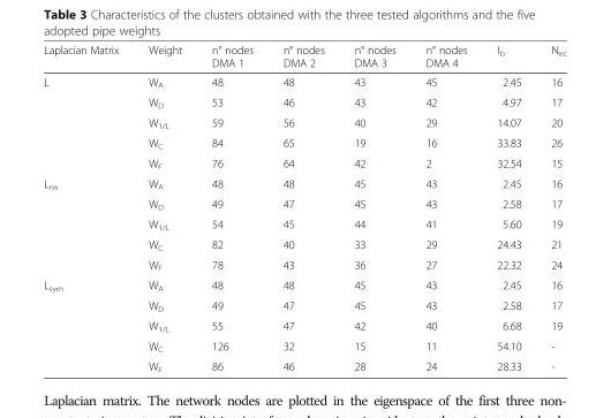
<table><thead><tr><td>Laplacian Matrix</td><td>Weight</td><td>n° nodes DMA 1</td><td>n° nodes DMA 2</td><td>n° nodes DMA 3</td><td>n° nodes DMA 4</td><td>I<sub>b</sub></td><td>N<sub>ec</sub></td></tr></thead><tbody><tr><td rowspan="5">L</td><td>W<sub>A</sub></td><td>48</td><td>48</td><td>43</td><td>45</td><td>2.45</td><td>16</td></tr><tr><td>W<sub>D</sub></td><td>53</td><td>46</td><td>43</td><td>42</td><td>4.97</td><td>17</td></tr><tr><td>W<sub>1/L</sub></td><td>59</td><td>56</td><td>40</td><td>29</td><td>14.07</td><td>20</td></tr><tr><td>W<sub>C</sub></td><td>84</td><td>65</td><td>19</td><td>16</td><td>33.83</td><td>26</td></tr><tr><td>W<sub>F</sub></td><td>76</td><td>64</td><td>42</td><td>2</td><td>32.54</td><td>15</td></tr><tr><td rowspan="5">L<sub>rw</sub></td><td>W<sub>A</sub></td><td>48</td><td>48</td><td>45</td><td>43</td><td>2.45</td><td>16</td></tr><tr><td>W<sub>D</sub></td><td>49</td><td>47</td><td>45</td><td>43</td><td>2.58</td><td>17</td></tr><tr><td>W<sub>1/L</sub></td><td>54</td><td>45</td><td>44</td><td>41</td><td>5.60</td><td>19</td></tr><tr><td>W<sub>C</sub></td><td>82</td><td>40</td><td>33</td><td>29</td><td>24.43</td><td>21</td></tr><tr><td>W<sub>F</sub></td><td>78</td><td>43</td><td>36</td><td>27</td><td>22.32</td><td>24</td></tr><tr><td rowspan="5">L<sub>sym</sub></td><td>W<sub>A</sub></td><td>48</td><td>48</td><td>45</td><td>43</td><td>2.45</td><td>16</td></tr><tr><td>W<sub>D</sub></td><td>49</td><td>47</td><td>45</td><td>43</td><td>2.58</td><td>17</td></tr><tr><td>W<sub>1/L</sub></td><td>55</td><td>47</td><td>42</td><td>40</td><td>6.68</td><td>19</td></tr><tr><td>W<sub>C</sub></td><td>126</td><td>32</td><td>15</td><td>11</td><td>54.10</td><td>-</td></tr><tr><td>W<sub>F</sub></td><td>86</td><td>46</td><td>28</td><td>24</td><td>28.33</td><td>-</td></tr></tbody></table>